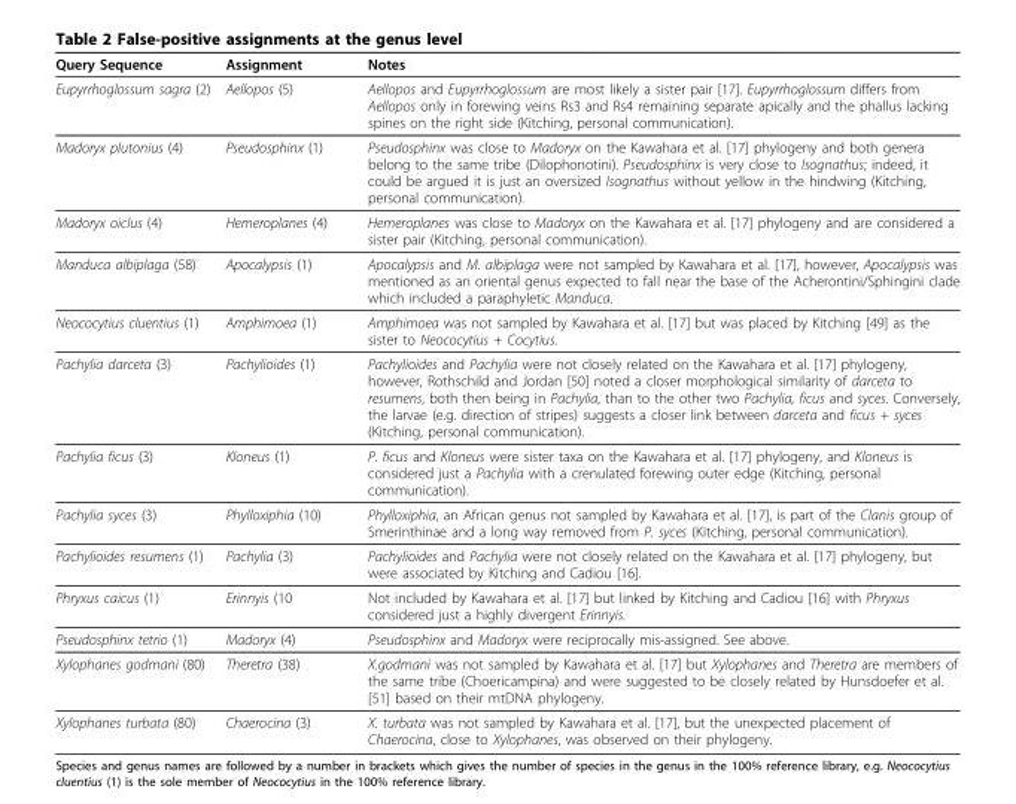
<table><thead><tr><td>Query Sequence</td><td>Assignment</td><td>Notes</td></tr></thead><tbody><tr><td>Eupyrrhoglossum sagra (2)</td><td>Aellopos (5)</td><td>Aellopos and Eupyrrhoglossum are most likely a sister pair [17]. Eupyrrhoglossum differs from Aellopos only in forewing veins Rs3 and Rs4 remaining separate apically and the phallus lacking spines on the right side (Kitching, personal communication).</td></tr><tr><td>Madoryx plutonius (4)</td><td>Pseudosphinx (1)</td><td>Pseudosphinx was close to Madoryx on the Kawahara et al. [17] phylogeny and both genera belong to the same tribe (Dilophonotini). Pseudosphinx is very close to Isognathus; indeed, it could be argued it is just an oversized Isognathus without yellow in the hindwing (Kitching, personal communication).</td></tr><tr><td>Madoryx oiclus (4)</td><td>Hemeroplanes (4)</td><td>Hemeroplanes was close to Madoryx on the Kawahara et al. [17] phylogeny and are considered a sister pair (Kitching, personal communication).</td></tr><tr><td>Manduca albiplaga (58)</td><td>Apocalypsis (1)</td><td>Apocalypsis and M. albiplaga were not sampled by Kawahara et al. [17], however, Apocalypsis was mentioned as an oriental genus expected to fall near the base of the Acherontini/Sphingini clade which included a paraphyletic Manduca.</td></tr><tr><td>Neococytius cluentius (1)</td><td>Amphimoea (1)</td><td>Amphimoea was not sampled by Kawahara et al. [17] but was placed by Kitching [49] as the sister to Neococytius + Cocytius.</td></tr><tr><td>Pachylia darceta (3)</td><td>Pachylioides (1)</td><td>Pachylioides and Pachylia were not closely related on the Kawahara et al. [17] phylogeny, however, Rothschild and Jordan [50] noted a closer morphological similarity of darceta to resumens, both then being in Pachylia, than to the other two Pachylia, ficus and syces. Conversely, the larvae (e.g. direction of stripes) suggests a closer link between darceta and ficus + syces (Kitching, personal communication).</td></tr><tr><td>Pachylia ficus (3)</td><td>Kloneus (1)</td><td>P. ficus and Kloneus were sister taxa on the Kawahara et al. [17] phylogeny, and Kloneus is considered just a Pachylia with a crenulated forewing outer edge (Kitching, personal communication).</td></tr><tr><td>Pachylia syces (3)</td><td>Phylloxiphia (10)</td><td>Phylloxiphia, an African genus not sampled by Kawahara et al. [17], is part of the Clanis group of Smerinthinae and a long way removed from P. syces (Kitching, personal communication).</td></tr><tr><td>Pachylioides resumens (1)</td><td>Pachylia (3)</td><td>Pachylioides and Pachylia were not closely related on the Kawahara et al. [17] phylogeny, but were associated by Kitching and Cadiou [16].</td></tr><tr><td>Phryxus caicus (1)</td><td>Erinnyis (10</td><td>Not included by Kawahara et al. [17] but linked by Kitching and Cadiou [16] with Phryxus considered just a highly divergent Erinnyis.</td></tr><tr><td>Pseudosphinx tetrio (1)</td><td>Madoryx (4)</td><td>Pseudosphinx and Madoryx were reciprocally mis-assigned. See above.</td></tr><tr><td>Xylophanes godmani (80)</td><td>Theretra (38)</td><td>X.godmani was not sampled by Kawahara et al. [17] but Xylophanes and Theretra are members of the same tribe (Choericampina) and were suggested to be closely related by Hunsdoefer et al. [51] based on their mtDNA phylogeny.</td></tr><tr><td>Xylophanes turbata (80)</td><td>Chaerocina (3)</td><td>X. turbata was not sampled by Kawahara et al. [17], but the unexpected placement of Chaerocina, close to Xylophanes, was observed on their phylogeny.</td></tr></tbody></table>